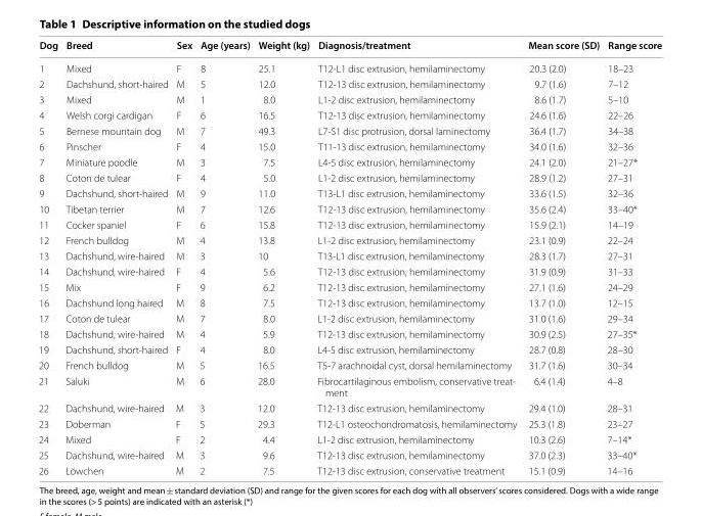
<table><thead><tr><td>Dog</td><td>Breed</td><td>Sex</td><td>Age (years)</td><td>Weight (kg)</td><td>Diagnosis/treatment</td><td>Mean score (SD)</td><td>Range score</td></tr></thead><tbody><tr><td>1</td><td>Mixed</td><td>F</td><td>8</td><td>25.1</td><td>T12‑L1 disc extrusion, hemilaminectomy</td><td>20.3 (2.0)</td><td>18–23</td></tr><tr><td>2</td><td>Dachshund, short‑haired</td><td>M</td><td>5</td><td>12.0</td><td>T12‑13 disc extrusion, hemilaminectomy</td><td>9.7 (1.6)</td><td>7–12</td></tr><tr><td>3</td><td>Mixed</td><td>M</td><td>1</td><td>8.0</td><td>L1‑2 disc extrusion, hemilaminectomy</td><td>8.6 (1.7)</td><td>5–10</td></tr><tr><td>4</td><td>Welsh corgi cardigan</td><td>F</td><td>6</td><td>16.5</td><td>T12‑13 disc extrusion, hemilaminectomy</td><td>24.6 (1.6)</td><td>22–26</td></tr><tr><td>5</td><td>Bernese mountain dog</td><td>M</td><td>7</td><td>49.3</td><td>L7‑S1 disc protrusion, dorsal laminectomy</td><td>36.4 (1.7)</td><td>34–38</td></tr><tr><td>6</td><td>Pinscher</td><td>F</td><td>4</td><td>15.0</td><td>T11‑13 disc extrusion, hemilaminectomy</td><td>34.0 (1.6)</td><td>32–36</td></tr><tr><td>7</td><td>Miniature poodle</td><td>M</td><td>3</td><td>7.5</td><td>L4‑5 disc extrusion, hemilaminectomy</td><td>24.1 (2.0)</td><td>21–27*</td></tr><tr><td>8</td><td>Coton de tulear</td><td>F</td><td>4</td><td>5.0</td><td>L1‑2 disc extrusion, hemilaminectomy</td><td>28.9 (1.2)</td><td>27–31</td></tr><tr><td>9</td><td>Dachshund, short‑haired</td><td>M</td><td>9</td><td>11.0</td><td>T13‑L1 disc extrusion, hemilaminectomy</td><td>33.6 (1.5)</td><td>32–36</td></tr><tr><td>10</td><td>Tibetan terrier</td><td>M</td><td>7</td><td>12.6</td><td>T12‑13 disc extrusion, hemilaminectomy</td><td>35.6 (2.4)</td><td>33–40*</td></tr><tr><td>11</td><td>Cocker spaniel</td><td>F</td><td>6</td><td>15.8</td><td>T12‑13 disc extrusion, hemilaminectomy</td><td>15.9 (2.1)</td><td>14–19</td></tr><tr><td>12</td><td>French bulldog</td><td>M</td><td>4</td><td>13.8</td><td>L1‑2 disc extrusion, hemilaminectomy</td><td>23.1 (0.9)</td><td>22–24</td></tr><tr><td>13</td><td>Dachshund, wire‑haired</td><td>M</td><td>3</td><td>10</td><td>T13‑L1 disc extrusion, hemilaminectomy</td><td>28.3 (1.7)</td><td>27–31</td></tr><tr><td>14</td><td>Dachshund, wire‑haired</td><td>F</td><td>4</td><td>5.6</td><td>T12‑13 disc extrusion, hemilaminectomy</td><td>31.9 (0.9)</td><td>31–33</td></tr><tr><td>15</td><td>Mix</td><td>F</td><td>9</td><td>6.2</td><td>T12‑13 disc extrusion, hemilaminectomy</td><td>27.1 (1.6)</td><td>24–29</td></tr><tr><td>16</td><td>Dachshund long haired</td><td>M</td><td>8</td><td>7.5</td><td>T12‑13 disc extrusion, hemilaminectomy</td><td>13.7 (1.0)</td><td>12–15</td></tr><tr><td>17</td><td>Coton de tulear</td><td>M</td><td>7</td><td>8.0</td><td>L1‑2 disc extrusion, hemilaminectomy</td><td>31.0 (1.6)</td><td>29–34</td></tr><tr><td>18</td><td>Dachshund, wire‑haired</td><td>M</td><td>4</td><td>5.9</td><td>T12‑13 disc extrusion, hemilaminectomy</td><td>30.9 (2.5)</td><td>27–35*</td></tr><tr><td>19</td><td>Dachshund, short‑haired</td><td>F</td><td>4</td><td>8.0</td><td>L4‑5 disc extrusion, hemilaminectomy</td><td>28.7 (0.8)</td><td>28–30</td></tr><tr><td>20</td><td>French bulldog</td><td>M</td><td>5</td><td>16.5</td><td>T5‑7 arachnoidal cyst, dorsal hemilaminectomy</td><td>31.7 (1.6)</td><td>30–34</td></tr><tr><td>21</td><td>Saluki</td><td>M</td><td>6</td><td>28.0</td><td>Fibrocartilaginous embolism, conservative treat‑ ment</td><td>6.4 (1.4)</td><td>4–8</td></tr><tr><td>22</td><td>Dachshund, wire‑haired</td><td>M</td><td>3</td><td>12.0</td><td>T12‑13 disc extrusion, hemilaminectomy</td><td>29.4 (1.0)</td><td>28–31</td></tr><tr><td>23</td><td>Doberman</td><td>F</td><td>5</td><td>29.3</td><td>T12‑L1 osteochondromatosis, hemilaminectomy</td><td>25.3 (1.8)</td><td>23–27</td></tr><tr><td>24</td><td>Mixed</td><td>F</td><td>2</td><td>4.4</td><td>L1‑2 disc extrusion, hemilaminectomy</td><td>10.3 (2.6)</td><td>7–14*</td></tr><tr><td>25</td><td>Dachshund, wire‑haired</td><td>M</td><td>3</td><td>9.6</td><td>T12‑13 disc extrusion, hemilaminectomy</td><td>37.0 (2.3)</td><td>33–40*</td></tr><tr><td>26</td><td>Löwchen</td><td>M</td><td>2</td><td>7.5</td><td>T12‑13 disc extrusion, conservative treatment</td><td>15.1 (0.9)</td><td>14–16</td></tr></tbody></table>